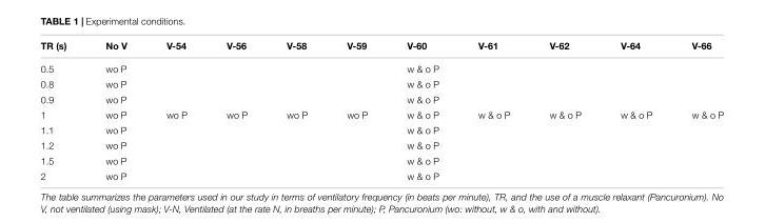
<table><thead><tr><td>TR (s)</td><td>No V</td><td>V-54</td><td>V-56</td><td>V-58</td><td>V-59</td><td>V-60</td><td>V-61</td><td>V-62</td><td>V-64</td><td>V-66</td></tr></thead><tbody><tr><td>0.5</td><td>wo P</td><td></td><td></td><td></td><td></td><td>w &amp; o P</td><td></td><td></td><td></td><td></td></tr><tr><td>0.8</td><td>wo P</td><td></td><td></td><td></td><td></td><td>w &amp; o P</td><td></td><td></td><td></td><td></td></tr><tr><td>0.9</td><td>wo P</td><td></td><td></td><td></td><td></td><td>w &amp; o P</td><td></td><td></td><td></td><td></td></tr><tr><td>1</td><td>wo P</td><td>wo P</td><td>wo P</td><td>wo P</td><td>wo P</td><td>w &amp; o P</td><td>w &amp; o P</td><td>w &amp; o P</td><td>w &amp; o P</td><td>w &amp; o P</td></tr><tr><td>1.1</td><td>wo P</td><td></td><td></td><td></td><td></td><td>w &amp; o P</td><td></td><td></td><td></td><td></td></tr><tr><td>1.2</td><td>wo P</td><td></td><td></td><td></td><td></td><td>w &amp; o P</td><td></td><td></td><td></td><td></td></tr><tr><td>1.5</td><td>wo P</td><td></td><td></td><td></td><td></td><td>w &amp; o P</td><td></td><td></td><td></td><td></td></tr><tr><td>2</td><td>wo P</td><td></td><td></td><td></td><td></td><td>w &amp; o P</td><td></td><td></td><td></td><td></td></tr></tbody></table>